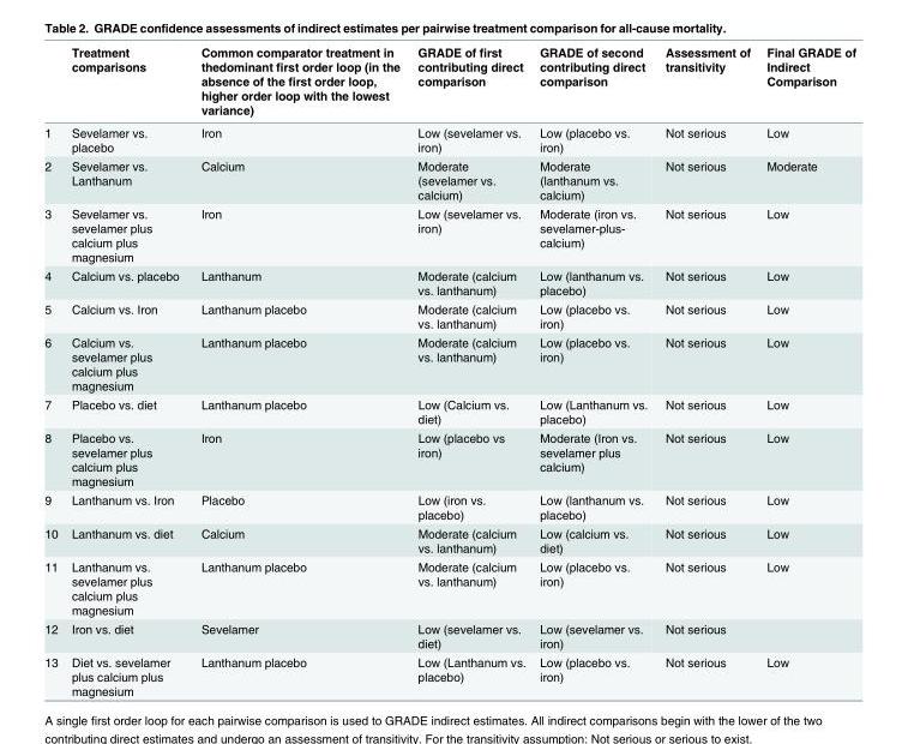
<table><thead><tr><td></td><td>Treatment comparisons</td><td>Common comparator treatment in thedominant first order loop (in the absence of the first order loop, higher order loop with the lowest variance)</td><td>GRADE of first contributing direct comparison</td><td>GRADE of second contributing direct comparison</td><td>Assessment of transitivity</td><td>Final GRADE of Indirect Comparison</td></tr></thead><tbody><tr><td>1</td><td>Sevelamer vs. placebo</td><td>Iron</td><td>Low (sevelamer vs. iron)</td><td>Low (placebo vs. iron)</td><td>Not serious</td><td>Low</td></tr><tr><td>2</td><td>Sevelamer vs. Lanthanum</td><td>Calcium</td><td>Moderate (sevelamer vs. calcium)</td><td>Moderate (lanthanum vs. calcium)</td><td>Not serious</td><td>Moderate</td></tr><tr><td>3</td><td>Sevelamer vs. sevelamer plus calcium plus magnesium</td><td>Iron</td><td>Low (sevelamer vs. iron)</td><td>Moderate (iron vs. sevelamer-plus- calcium)</td><td>Not serious</td><td>Low</td></tr><tr><td>4</td><td>Calcium vs. placebo</td><td>Lanthanum</td><td>Moderate (calcium vs. lanthanum)</td><td>Low (lanthanum vs. placebo)</td><td>Not serious</td><td>Low</td></tr><tr><td>5</td><td>Calcium vs. Iron</td><td>Lanthanum placebo</td><td>Moderate (calcium vs. lanthanum)</td><td>Low (placebo vs. iron)</td><td>Not serious</td><td>Low</td></tr><tr><td>6</td><td>Calcium vs. sevelamer plus calcium plus magnesium</td><td>Lanthanum placebo</td><td>Moderate (calcium vs. lanthanum)</td><td>Low (placebo vs. iron)</td><td>Not serious</td><td>Low</td></tr><tr><td>7</td><td>Placebo vs. diet</td><td>Lanthanum placebo</td><td>Low (Calcium vs. diet)</td><td>Low (Lanthanum vs. placebo)</td><td>Not serious</td><td>Low</td></tr><tr><td>8</td><td>Placebo vs. sevelamer plus calcium plus magnesium</td><td>Iron</td><td>Low (placebo vs iron)</td><td>Moderate (Iron vs. sevelamer plus calcium)</td><td>Not serious</td><td>Low</td></tr><tr><td>9</td><td>Lanthanum vs. Iron</td><td>Placebo</td><td>Low (iron vs. placebo)</td><td>Low (lanthanum vs. placebo)</td><td>Not serious</td><td>Low</td></tr><tr><td>10</td><td>Lanthanum vs. diet</td><td>Calcium</td><td>Moderate (calcium vs. lanthanum)</td><td>Low (calcium vs. diet)</td><td>Not serious</td><td>Low</td></tr><tr><td>11</td><td>Lanthanum vs. sevelamer plus calcium plus magnesium</td><td>Lanthanum placebo</td><td>Moderate (calcium vs. lanthanum)</td><td>Low (placebo vs. iron)</td><td>Not serious</td><td>Low</td></tr><tr><td>12</td><td>Iron vs. diet</td><td>Sevelamer</td><td>Low (sevelamer vs. diet)</td><td>Low (sevelamer vs. iron)</td><td>Not serious</td><td></td></tr><tr><td>13</td><td>Diet vs. sevelamer plus calcium plus magnesium</td><td>Lanthanum placebo</td><td>Low (Lanthanum vs. placebo)</td><td>Low (placebo vs. iron)</td><td>Not serious</td><td>Low</td></tr></tbody></table>